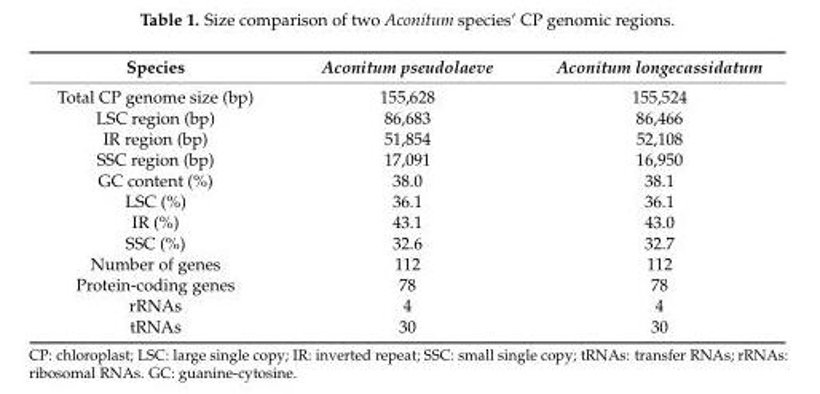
<table><thead><tr><td>Species</td><td>Aconitum pseudolaeve</td><td>Aconitum longecassidatum</td></tr></thead><tbody><tr><td>Total CP genome size (bp)</td><td>155,628</td><td>155,524</td></tr><tr><td>LSC region (bp)</td><td>86,683</td><td>86,466</td></tr><tr><td>IR region (bp)</td><td>51,854</td><td>52,108</td></tr><tr><td>SSC region (bp)</td><td>17,091</td><td>16,950</td></tr><tr><td>GC content (%)</td><td>38.0</td><td>38.1</td></tr><tr><td>LSC (%)</td><td>36.1</td><td>36.1</td></tr><tr><td>IR (%)</td><td>43.1</td><td>43.0</td></tr><tr><td>SSC (%)</td><td>32.6</td><td>32.7</td></tr><tr><td>Number of genes</td><td>112</td><td>112</td></tr><tr><td>Protein-coding genes</td><td>78</td><td>78</td></tr><tr><td>rRNAs</td><td>4</td><td>4</td></tr><tr><td>tRNAs</td><td>30</td><td>30</td></tr></tbody></table>